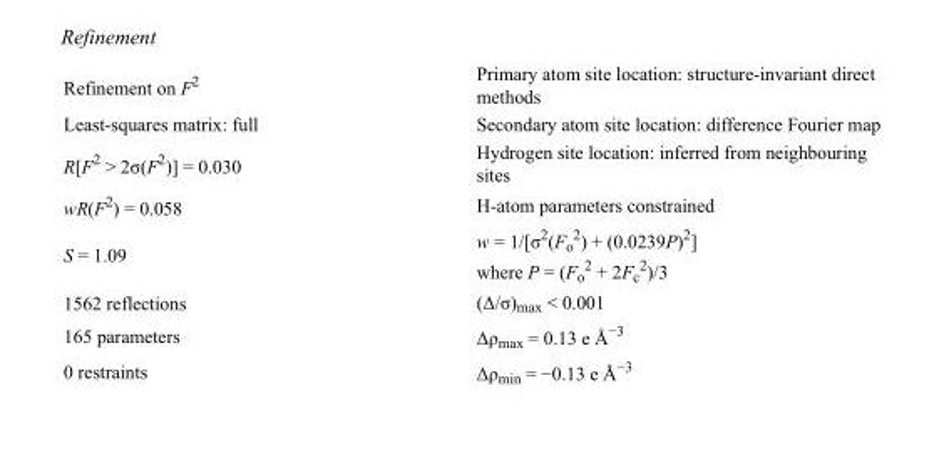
<table><tbody><tr><td>Refinement on F<sup>2</sup></td><td>Primary atom site location: structure-invariant direct methods</td></tr><tr><td>Least-squares matrix: full</td><td>Secondary atom site location: difference Fourier map</td></tr><tr><td>R[F<sup>2</sup> &gt; 2σ(F<sup>2</sup>)] = 0.030</td><td>Hydrogen site location: inferred from neighbouring sites</td></tr><tr><td>wR(F<sup>2</sup>) = 0.058</td><td>H-atom parameters constrained</td></tr><tr><td>S = 1.09</td><td>w = 1/[σ<sup>2</sup>(F<sub>o</sub> <sup>2</sup>) + (0.0239P)<sup>2</sup>] where P = (F<sub>o</sub> <sup>2</sup> + 2F<sub>c</sub> <sup>2</sup>)/3</td></tr><tr><td>1562 reflections</td><td>(Δ/σ)<sub>max</sub> &lt; 0.001</td></tr><tr><td>165 parameters</td><td>Δρ<sub>max</sub> = 0.13 e Å<sup>−3</sup></td></tr><tr><td>0 restraints</td><td>Δρ<sub>min</sub> = −0.13 e Å<sup>−3</sup></td></tr></tbody></table>